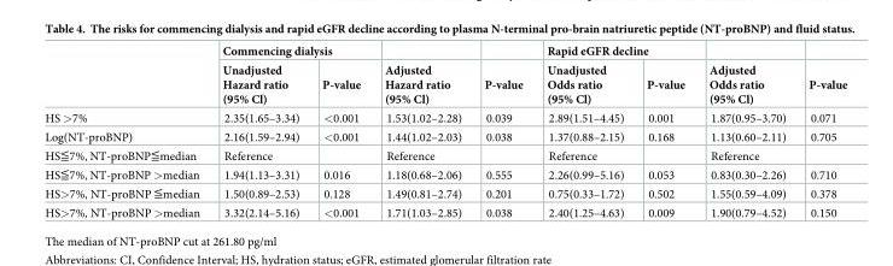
<table><thead><tr><td rowspan="2"></td><td colspan="2">Commencing dialysis</td><td rowspan="2">Adjusted Hazard ratio (95% Cl)</td><td rowspan="2">P-value</td><td colspan="2">Rapid eGFR decline</td><td rowspan="2">Adjusted Odds ratio (95% Cl)</td><td rowspan="2">P-value</td></tr><tr><td>Unadjusted Hazard ratio (95% Cl)</td><td>P-value</td><td>Unadjusted Odds ratio (95% Cl)</td><td>P-value</td></tr></thead><tbody><tr><td>HS &gt;7%</td><td>2.35(1.65–3.34)</td><td>&lt;0.001</td><td>1.53(1.02–2.28)</td><td>0.039</td><td>2.89(1.51–4.45)</td><td>0.001</td><td>1.87(0.95–3.70)</td><td>0.071</td></tr><tr><td>Log(NT-proBNP)</td><td>2.16(1.59–2.94)</td><td>&lt;0.001</td><td>1.44(1.02–2.03)</td><td>0.038</td><td>1.37(0.88–2.15)</td><td>0.168</td><td>1.13(0.60–2.11)</td><td>0.705</td></tr><tr><td>HS≦7%, NT-proBNP≦median</td><td>Reference</td><td></td><td>Reference</td><td></td><td>Reference</td><td></td><td>Reference</td><td></td></tr><tr><td>HS≦7%, NT-proBNP &gt;median</td><td>1.94(1.13–3.31)</td><td>0.016</td><td>1.18(0.68–2.06)</td><td>0.555</td><td>2.26(0.99–5.16)</td><td>0.053</td><td>0.83(0.30–2.26)</td><td>0.710</td></tr><tr><td>HS&gt;7%, NT-proBNP ≦median</td><td>1.50(0.89–2.53)</td><td>0.128</td><td>1.49(0.81–2.74)</td><td>0.201</td><td>0.75(0.33–1.72)</td><td>0.502</td><td>1.55(0.59–4.09)</td><td>0.378</td></tr><tr><td>HS&gt;7%, NT-proBNP &gt;median</td><td>3.32(2.14–5.16)</td><td>&lt;0.001</td><td>1.71(1.03–2.85)</td><td>0.038</td><td>2.40(1.25–4.63)</td><td>0.009</td><td>1.90(0.79–4.52)</td><td>0.150</td></tr></tbody></table>